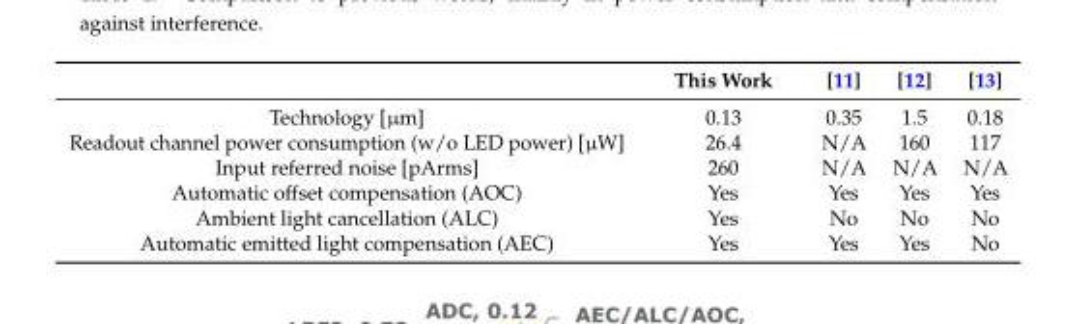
<table><thead><tr><td></td><td>This Work</td><td>[11]</td><td>[12]</td><td>[13]</td></tr></thead><tbody><tr><td>Technology [µm]</td><td>0.13</td><td>0.35</td><td>1.5</td><td>0.18</td></tr><tr><td>Readout channel power consumption (w/o LED power) [µW]</td><td>26.4</td><td>N/A</td><td>160</td><td>117</td></tr><tr><td>Input referred noise [pArms]</td><td>260</td><td>N/A</td><td>N/A</td><td>N/A</td></tr><tr><td>Automatic offset compensation (AOC)</td><td>Yes</td><td>Yes</td><td>Yes</td><td>Yes</td></tr><tr><td>Ambient light cancellation (ALC)</td><td>Yes</td><td>No</td><td>No</td><td>No</td></tr><tr><td>Automatic emitted light compensation (AEC)</td><td>Yes</td><td>Yes</td><td>Yes</td><td>No</td></tr></tbody></table>